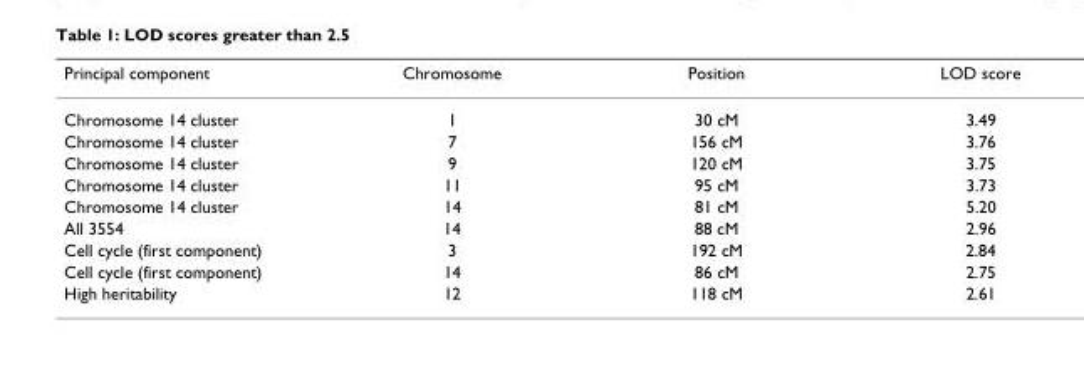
<table><thead><tr><td>Principal component</td><td>Chromosome</td><td>Position</td><td>LOD score</td></tr></thead><tbody><tr><td>Chromosome 14 cluster</td><td>1</td><td>30 cM</td><td>3.49</td></tr><tr><td>Chromosome 14 cluster</td><td>7</td><td>156 cM</td><td>3.76</td></tr><tr><td>Chromosome 14 cluster</td><td>9</td><td>120 cM</td><td>3.75</td></tr><tr><td>Chromosome 14 cluster</td><td>11</td><td>95 cM</td><td>3.73</td></tr><tr><td>Chromosome 14 cluster</td><td>14</td><td>81 cM</td><td>5.20</td></tr><tr><td>All 3554</td><td>14</td><td>88 cM</td><td>2.96</td></tr><tr><td>Cell cycle (first component)</td><td>3</td><td>192 cM</td><td>2.84</td></tr><tr><td>Cell cycle (first component)</td><td>14</td><td>86 cM</td><td>2.75</td></tr><tr><td>High heritability</td><td>12</td><td>118 cM</td><td>2.61</td></tr></tbody></table>